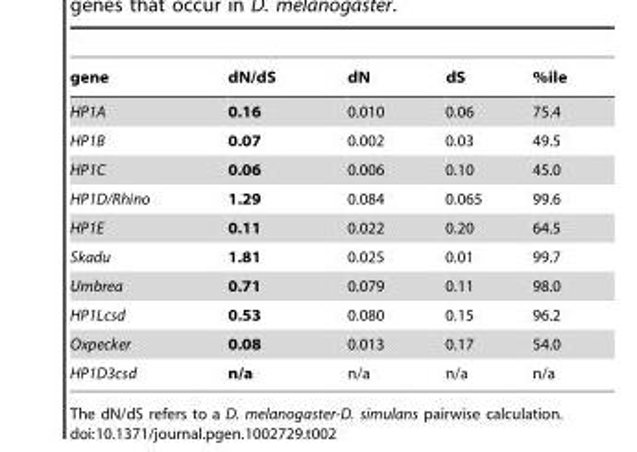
<table><thead><tr><td>gene</td><td>dN/dS</td><td>dN</td><td>dS</td><td>%ile</td></tr></thead><tbody><tr><td>HP1A</td><td>0.16</td><td>0.010</td><td>0.06</td><td>75.4</td></tr><tr><td>HP1B</td><td>0.07</td><td>0.002</td><td>0.03</td><td>49.5</td></tr><tr><td>HP1C</td><td>0.06</td><td>0.006</td><td>0.10</td><td>45.0</td></tr><tr><td>HP1D/Rhino</td><td>1.29</td><td>0.084</td><td>0.065</td><td>99.6</td></tr><tr><td>HP1E</td><td>0.11</td><td>0.022</td><td>0.20</td><td>64.5</td></tr><tr><td>Skadu</td><td>1.81</td><td>0.025</td><td>0.01</td><td>99.7</td></tr><tr><td>Umbrea</td><td>0.71</td><td>0.079</td><td>0.11</td><td>98.0</td></tr><tr><td>HP1Lcsd</td><td>0.53</td><td>0.080</td><td>0.15</td><td>96.2</td></tr><tr><td>Oxpecker</td><td>0.08</td><td>0.013</td><td>0.17</td><td>54.0</td></tr><tr><td>HP1D3csd</td><td>n/a</td><td>n/a</td><td>n/a</td><td>n/a</td></tr></tbody></table>